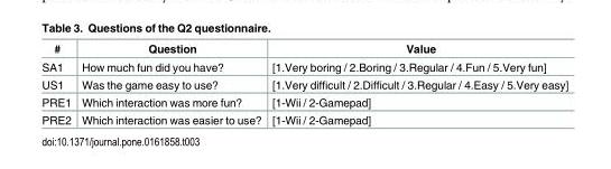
<table><thead><tr><td>#</td><td>Question</td><td>Value</td></tr></thead><tbody><tr><td>SA1</td><td>How much fun did you have?</td><td>[1.Very boring / 2.Boring / 3.Regular / 4.Fun / 5.Very fun]</td></tr><tr><td>US1</td><td>Was the game easy to use?</td><td>[1.Very difficult / 2.Difficult / 3.Regular / 4.Easy / 5.Very easy]</td></tr><tr><td>PRE1</td><td>Which interaction was more fun?</td><td>[1-Wii / 2-Gamepad]</td></tr><tr><td>PRE2</td><td>Which interaction was easier to use?</td><td>[1-Wii / 2-Gamepad]</td></tr></tbody></table>